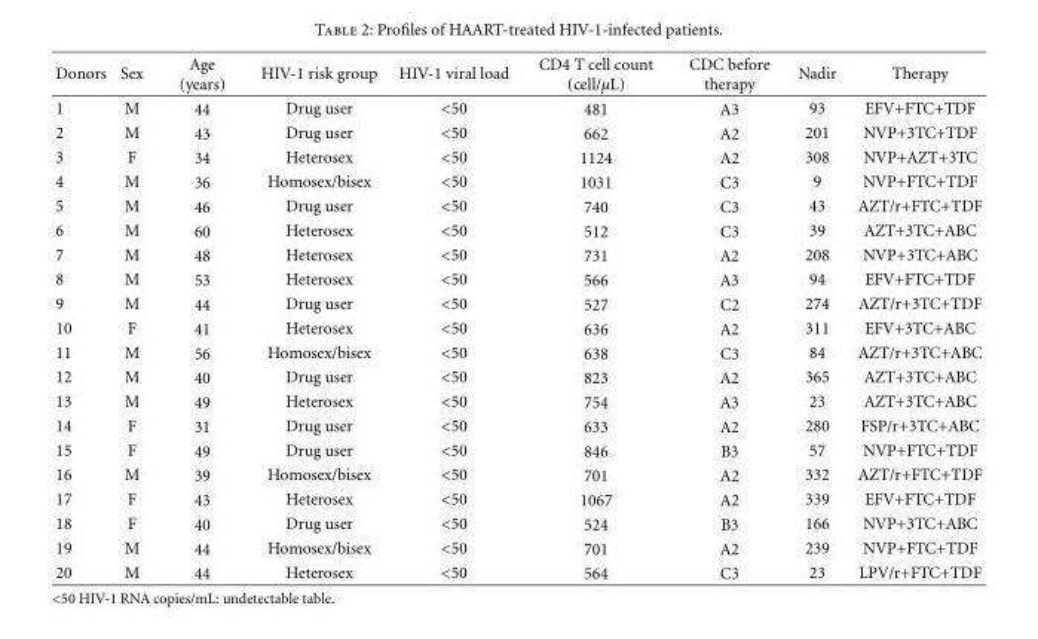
<table><thead><tr><td>Donors</td><td>Sex</td><td>Age (years)</td><td>HIV-1 risk group</td><td>HIV-1 viral load</td><td>CD4 T cell count (cell/μL)</td><td>CDC before therapy</td><td>Nadir</td><td>Therapy</td></tr></thead><tbody><tr><td>1</td><td>M</td><td>44</td><td>Drug user</td><td>&lt;50</td><td>481</td><td>A3</td><td>93</td><td>EFV+FTC+TDF</td></tr><tr><td>2</td><td>M</td><td>43</td><td>Drug user</td><td>&lt;50</td><td>662</td><td>A2</td><td>201</td><td>NVP+3TC+TDF</td></tr><tr><td>3</td><td>F</td><td>34</td><td>Heterosex</td><td>&lt;50</td><td>1124</td><td>A2</td><td>308</td><td>NVP+AZT+3TC</td></tr><tr><td>4</td><td>M</td><td>36</td><td>Homosex/bisex</td><td>&lt;50</td><td>1031</td><td>C3</td><td>9</td><td>NVP+FTC+TDF</td></tr><tr><td>5</td><td>M</td><td>46</td><td>Drug user</td><td>&lt;50</td><td>740</td><td>C3</td><td>43</td><td>AZT/r+FTC+TDF</td></tr><tr><td>6</td><td>M</td><td>60</td><td>Heterosex</td><td>&lt;50</td><td>512</td><td>C3</td><td>39</td><td>AZT+3TC+ABC</td></tr><tr><td>7</td><td>M</td><td>48</td><td>Heterosex</td><td>&lt;50</td><td>731</td><td>A2</td><td>208</td><td>NVP+3TC+ABC</td></tr><tr><td>8</td><td>M</td><td>53</td><td>Heterosex</td><td>&lt;50</td><td>566</td><td>A3</td><td>94</td><td>EFV+FTC+TDF</td></tr><tr><td>9</td><td>M</td><td>44</td><td>Drug user</td><td>&lt;50</td><td>527</td><td>C2</td><td>274</td><td>AZT/r+3TC+TDF</td></tr><tr><td>10</td><td>F</td><td>41</td><td>Heterosex</td><td>&lt;50</td><td>636</td><td>A2</td><td>311</td><td>EFV+3TC+ABC</td></tr><tr><td>11</td><td>M</td><td>56</td><td>Homosex/bisex</td><td>&lt;50</td><td>638</td><td>C3</td><td>84</td><td>AZT/r+3TC+ABC</td></tr><tr><td>12</td><td>M</td><td>40</td><td>Drug user</td><td>&lt;50</td><td>823</td><td>A2</td><td>365</td><td>AZT+3TC+ABC</td></tr><tr><td>13</td><td>M</td><td>49</td><td>Heterosex</td><td>&lt;50</td><td>754</td><td>A3</td><td>23</td><td>AZT+3TC+ABC</td></tr><tr><td>14</td><td>F</td><td>31</td><td>Drug user</td><td>&lt;50</td><td>633</td><td>A2</td><td>280</td><td>FSP/r+3TC+ABC</td></tr><tr><td>15</td><td>F</td><td>49</td><td>Drug user</td><td>&lt;50</td><td>846</td><td>B3</td><td>57</td><td>NVP+FTC+TDF</td></tr><tr><td>16</td><td>M</td><td>39</td><td>Homosex/bisex</td><td>&lt;50</td><td>701</td><td>A2</td><td>332</td><td>AZT/r+FTC+TDF</td></tr><tr><td>17</td><td>F</td><td>43</td><td>Heterosex</td><td>&lt;50</td><td>1067</td><td>A2</td><td>339</td><td>EFV+FTC+TDF</td></tr><tr><td>18</td><td>F</td><td>40</td><td>Drug user</td><td>&lt;50</td><td>524</td><td>B3</td><td>166</td><td>NVP+3TC+ABC</td></tr><tr><td>19</td><td>M</td><td>44</td><td>Homosex/bisex</td><td>&lt;50</td><td>701</td><td>A2</td><td>239</td><td>NVP+FTC+TDF</td></tr><tr><td>20</td><td>M</td><td>44</td><td>Heterosex</td><td>&lt;50</td><td>564</td><td>C3</td><td>23</td><td>LPV/r+FTC+TDF</td></tr></tbody></table>